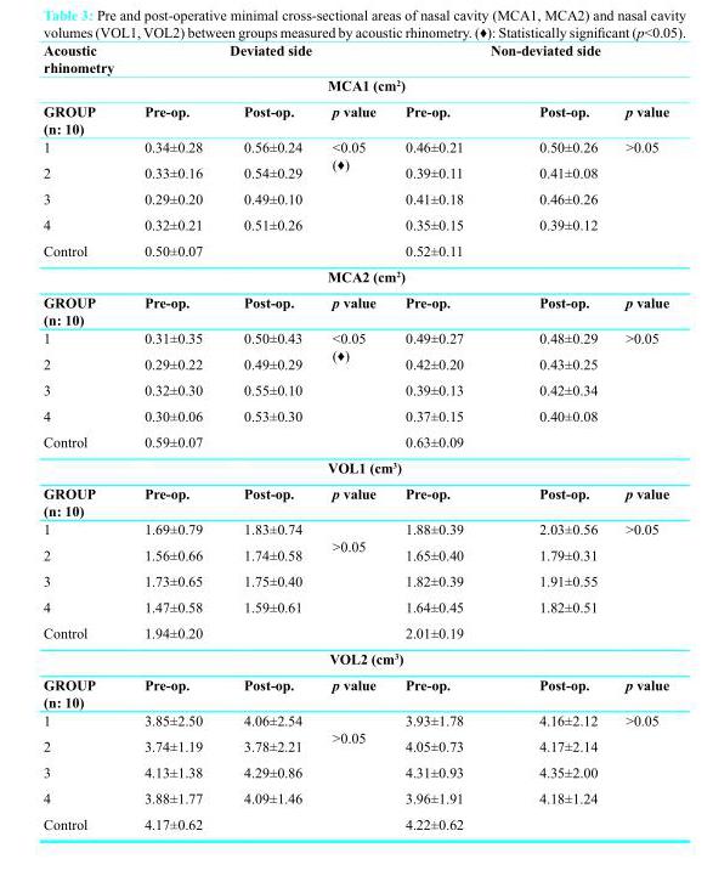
<table><thead><tr><td>Acoustic rhinometry</td><td colspan="3">Deviated side</td><td colspan="3">Non-deviated side</td></tr><tr><td colspan="7">MCA1 (cm<sup>2</sup>)</td></tr><tr><td>GROUP (n: 10)</td><td>Pre-op.</td><td>Post-op.</td><td>p value</td><td>Pre-op.</td><td>Post-op.</td><td>p value</td></tr></thead><tbody><tr><td>1</td><td>0.34±0.28</td><td>0.56±0.24</td><td rowspan="4">&lt;0.05 (♦)</td><td>0.46±0.21</td><td>0.50±0.26</td><td rowspan="4">&gt;0.05</td></tr><tr><td>2</td><td>0.33±0.16</td><td>0.54±0.29</td><td>0.39±0.11</td><td>0.41±0.08</td></tr><tr><td>3</td><td>0.29±0.20</td><td>0.49±0.10</td><td>0.41±0.18</td><td>0.46±0.26</td></tr><tr><td>4</td><td>0.32±0.21</td><td>0.51±0.26</td><td>0.35±0.15</td><td>0.39±0.12</td></tr><tr><td>Control</td><td>0.50±0.07</td><td colspan="2"></td><td>0.52±0.11</td><td colspan="2"></td></tr><tr><td colspan="7">MCA2 (cm<sup>2</sup>)</td></tr><tr><td>GROUP (n: 10)</td><td>Pre-op.</td><td>Post-op.</td><td>p value</td><td>Pre-op.</td><td>Post-op.</td><td>p value</td></tr><tr><td>1</td><td>0.31±0.35</td><td>0.50±0.43</td><td rowspan="4">&lt;0.05 (♦)</td><td>0.49±0.27</td><td>0.48±0.29</td><td rowspan="4">&gt;0.05</td></tr><tr><td>2</td><td>0.29±0.22</td><td>0.49±0.29</td><td>0.42±0.20</td><td>0.43±0.25</td></tr><tr><td>3</td><td>0.32±0.30</td><td>0.55±0.10</td><td>0.39±0.13</td><td>0.42±0.34</td></tr><tr><td>4</td><td>0.30±0.06</td><td>0.53±0.30</td><td>0.37±0.15</td><td>0.40±0.08</td></tr><tr><td>Control</td><td>0.59±0.07</td><td colspan="2"></td><td>0.63±0.09</td><td colspan="2"></td></tr><tr><td colspan="7">VOL1 (cm<sup>3</sup>)</td></tr><tr><td>GROUP (n: 10)</td><td>Pre-op.</td><td>Post-op.</td><td>p value</td><td>Pre-op.</td><td>Post-op.</td><td>p value</td></tr><tr><td>1</td><td>1.69±0.79</td><td>1.83±0.74</td><td rowspan="4">&gt;0.05</td><td>1.88±0.39</td><td>2.03±0.56</td><td rowspan="4">&gt;0.05</td></tr><tr><td>2</td><td>1.56±0.66</td><td>1.74±0.58</td><td>1.65±0.40</td><td>1.79±0.31</td></tr><tr><td>3</td><td>1.73±0.65</td><td>1.75±0.40</td><td>1.82±0.39</td><td>1.91±0.55</td></tr><tr><td>4</td><td>1.47±0.58</td><td>1.59±0.61</td><td>1.64±0.45</td><td>1.82±0.51</td></tr><tr><td>Control</td><td>1.94±0.20</td><td colspan="2"></td><td>2.01±0.19</td><td colspan="2"></td></tr><tr><td colspan="7">VOL2 (cm<sup>3</sup>)</td></tr><tr><td>GROUP (n: 10)</td><td>Pre-op.</td><td>Post-op.</td><td>p value</td><td>Pre-op.</td><td>Post-op.</td><td>p value</td></tr><tr><td>1</td><td>3.85±2.50</td><td>4.06±2.54</td><td rowspan="4">&gt;0.05</td><td>3.93±1.78</td><td>4.16±2.12</td><td rowspan="4">&gt;0.05</td></tr><tr><td>2</td><td>3.74±1.19</td><td>3.78±2.21</td><td>4.05±0.73</td><td>4.17±2.14</td></tr><tr><td>3</td><td>4.13±1.38</td><td>4.29±0.86</td><td>4.31±0.93</td><td>4.35±2.00</td></tr><tr><td>4</td><td>3.88±1.77</td><td>4.09±1.46</td><td>3.96±1.91</td><td>4.18±1.24</td></tr><tr><td>Control</td><td>4.17±0.62</td><td colspan="2"></td><td>4.22±0.62</td><td colspan="2"></td></tr></tbody></table>